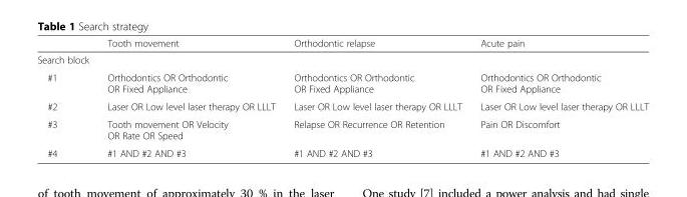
<table><thead><tr><td></td><td>Tooth movement</td><td>Orthodontic relapse</td><td>Acute pain</td></tr></thead><tbody><tr><td colspan="4">Search block</td></tr><tr><td>#1</td><td>Orthodontics OR Orthodontic OR Fixed Appliance</td><td>Orthodontics OR Orthodontic OR Fixed Appliance</td><td>Orthodontics OR Orthodontic OR Fixed Appliance</td></tr><tr><td>#2</td><td>Laser OR Low level laser therapy OR LLLT</td><td>Laser OR Low level laser therapy OR LLLT</td><td>Laser OR Low level laser therapy OR LLLT</td></tr><tr><td>#3</td><td>Tooth movement OR Velocity OR Rate OR Speed</td><td>Relapse OR Recurrence OR Retention</td><td>Pain OR Discomfort</td></tr><tr><td>#4</td><td>#1 AND #2 AND #3</td><td>#1 AND #2 AND #3</td><td>#1 AND #2 AND #3</td></tr></tbody></table>